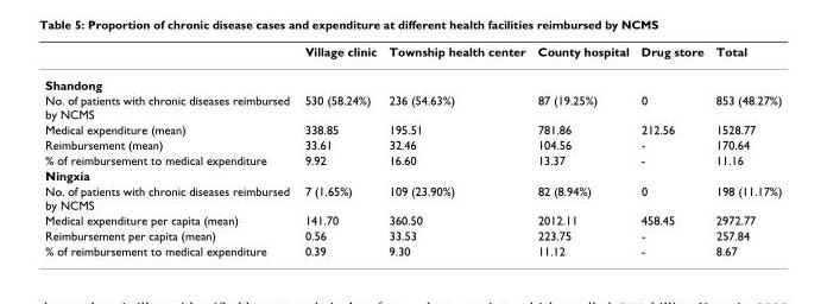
<table><thead><tr><td></td><td>Village clinic</td><td>Township health center</td><td>County hospital</td><td>Drug store</td><td>Total</td></tr></thead><tbody><tr><td colspan="6">Shandong</td></tr><tr><td>No. of patients with chronic diseases reimbursed by NCMS</td><td>530 (58.24%)</td><td>236 (54.63%)</td><td>87 (19.25%)</td><td>0</td><td>853 (48.27%)</td></tr><tr><td>Medical expenditure (mean)</td><td>338.85</td><td>195.51</td><td>781.86</td><td>212.56</td><td>1528.77</td></tr><tr><td>Reimbursement (mean)</td><td>33.61</td><td>32.46</td><td>104.56</td><td>-</td><td>170.64</td></tr><tr><td>% of reimbursement to medical expenditure</td><td>9.92</td><td>16.60</td><td>13.37</td><td>-</td><td>11.16</td></tr><tr><td colspan="6">Ningxia</td></tr><tr><td>No. of patients with chronic diseases reimbursed by NCMS</td><td>7 (1.65%)</td><td>109 (23.90%)</td><td>82 (8.94%)</td><td>0</td><td>198 (11.17%)</td></tr><tr><td>Medical expenditure per capita (mean)</td><td>141.70</td><td>360.50</td><td>2012.11</td><td>458.45</td><td>2972.77</td></tr><tr><td>Reimbursement per capita (mean)</td><td>0.56</td><td>33.53</td><td>223.75</td><td>-</td><td>257.84</td></tr><tr><td>% of reimbursement to medical expenditure</td><td>0.39</td><td>9.30</td><td>11.12</td><td>-</td><td>8.67</td></tr></tbody></table>